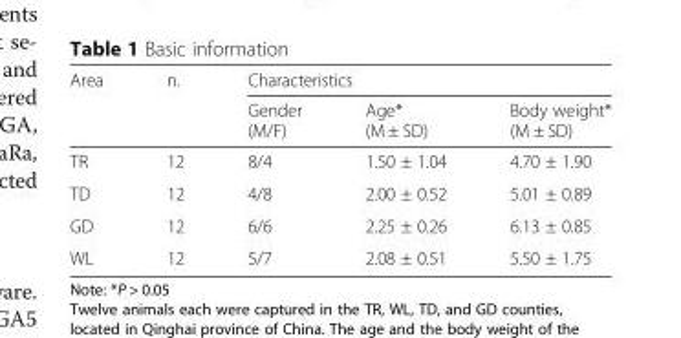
<table><thead><tr><td rowspan="2">Area</td><td rowspan="2">n.</td><td colspan="3">Characteristics</td></tr><tr><td>Gender (M/F)</td><td>Age* (M ± SD)</td><td>Body weight* (M ± SD)</td></tr></thead><tbody><tr><td>TR</td><td>12</td><td>8/4</td><td>1.50 ± 1.04</td><td>4.70 ± 1.90</td></tr><tr><td>TD</td><td>12</td><td>4/8</td><td>2.00 ± 0.52</td><td>5.01 ± 0.89</td></tr><tr><td>GD</td><td>12</td><td>6/6</td><td>2.25 ± 0.26</td><td>6.13 ± 0.85</td></tr><tr><td>WL</td><td>12</td><td>5/7</td><td>2.08 ± 0.51</td><td>5.50 ± 1.75</td></tr></tbody></table>